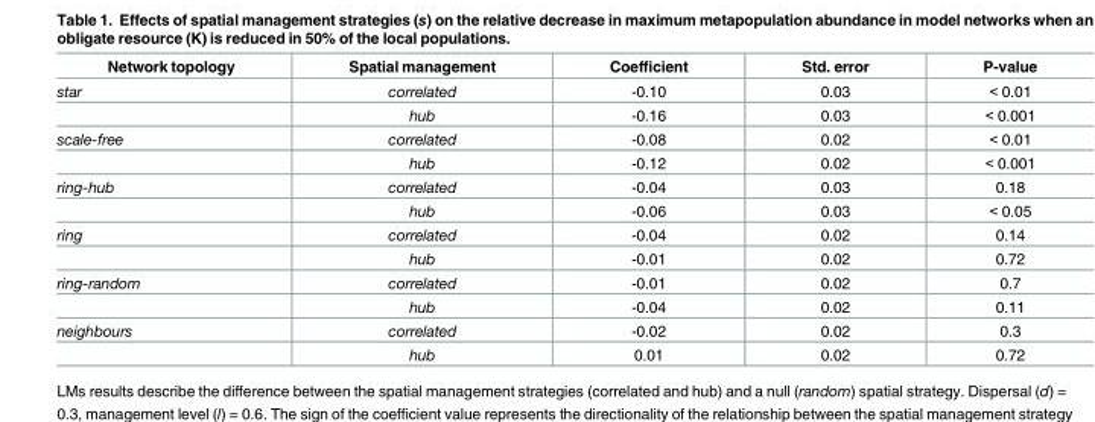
<table><thead><tr><td>Network topology</td><td>Spatial management</td><td>Coefficient</td><td>Std. error</td><td>P-value</td></tr></thead><tbody><tr><td rowspan="2">star</td><td>correlated</td><td>-0.10</td><td>0.03</td><td>&lt; 0.01</td></tr><tr><td>hub</td><td>-0.16</td><td>0.03</td><td>&lt; 0.001</td></tr><tr><td rowspan="2">scale-free</td><td>correlated</td><td>-0.08</td><td>0.02</td><td>&lt; 0.01</td></tr><tr><td>hub</td><td>-0.12</td><td>0.02</td><td>&lt; 0.001</td></tr><tr><td rowspan="2">ring-hub</td><td>correlated</td><td>-0.04</td><td>0.03</td><td>0.18</td></tr><tr><td>hub</td><td>-0.06</td><td>0.03</td><td>&lt; 0.05</td></tr><tr><td rowspan="2">ring</td><td>correlated</td><td>-0.04</td><td>0.02</td><td>0.14</td></tr><tr><td>hub</td><td>-0.01</td><td>0.02</td><td>0.72</td></tr><tr><td rowspan="2">ring-random</td><td>correlated</td><td>-0.01</td><td>0.02</td><td>0.7</td></tr><tr><td>hub</td><td>-0.04</td><td>0.02</td><td>0.11</td></tr><tr><td rowspan="2">neighbours</td><td>correlated</td><td>-0.02</td><td>0.02</td><td>0.3</td></tr><tr><td>hub</td><td>0.01</td><td>0.02</td><td>0.72</td></tr></tbody></table>